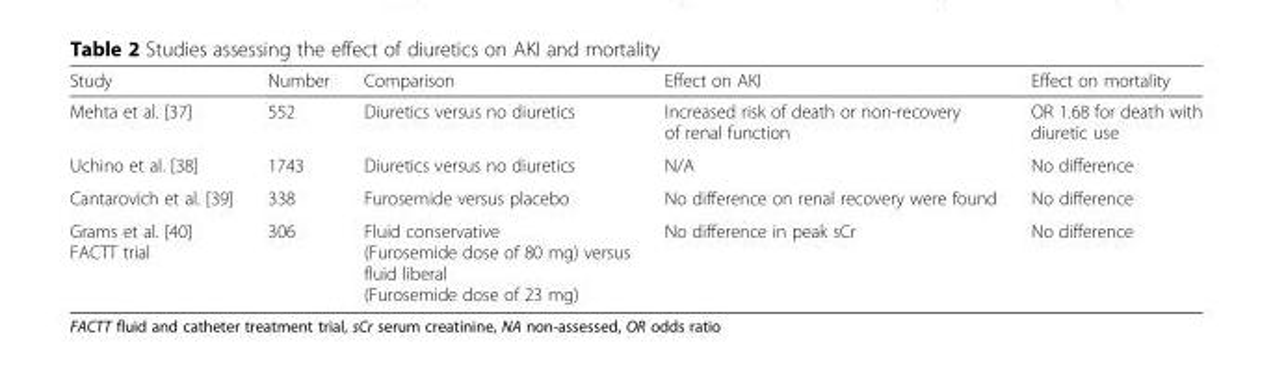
<table><thead><tr><td>Study</td><td>Number</td><td>Comparison</td><td>Effect on AKI</td><td>Effect on mortality</td></tr></thead><tbody><tr><td>Mehta et al. [37]</td><td>552</td><td>Diuretics versus no diuretics</td><td>Increased risk of death or non-recovery of renal function</td><td>OR 1.68 for death with diuretic use</td></tr><tr><td>Uchino et al. [38]</td><td>1743</td><td>Diuretics versus no diuretics</td><td>N/A</td><td>No difference</td></tr><tr><td>Cantarovich et al. [39]</td><td>338</td><td>Furosemide versus placebo</td><td>No difference on renal recovery were found</td><td>No difference</td></tr><tr><td>Grams et al. [40] FACTT trial</td><td>306</td><td>Fluid conservative (Furosemide dose of 80 mg) versus fluid liberal (Furosemide dose of 23 mg)</td><td>No difference in peak sCr</td><td>No difference</td></tr></tbody></table>